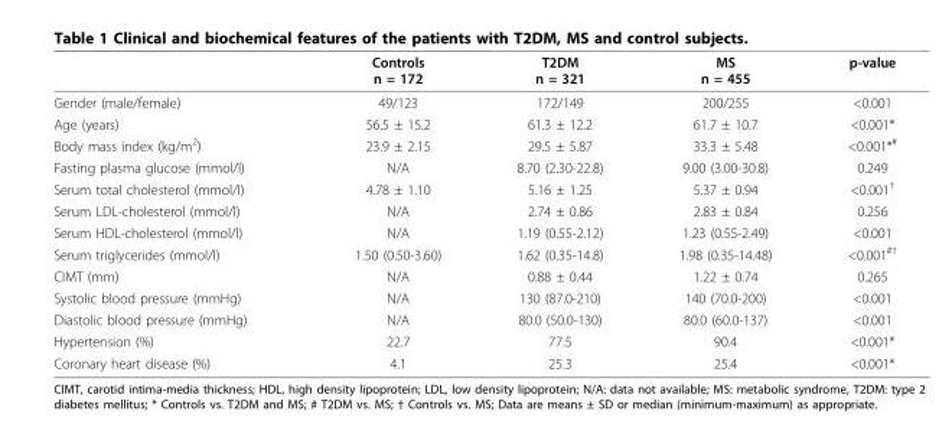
<table><thead><tr><td></td><td>Controls n = 172</td><td>T2DM n = 321</td><td>MS n = 455</td><td>p-value</td></tr></thead><tbody><tr><td>Gender (male/female)</td><td>49/123</td><td>172/149</td><td>200/255</td><td>&lt;0.001</td></tr><tr><td>Age (years)</td><td>56.5 ± 15.2</td><td>61.3 ± 12.2</td><td>61.7 ± 10.7</td><td>&lt;0.001*</td></tr><tr><td>Body mass index (kg/m<sup>2</sup>)</td><td>23.9 ± 2.15</td><td>29.5 ± 5.87</td><td>33.3 ± 5.48</td><td>&lt;0.001*<sup>#</sup></td></tr><tr><td>Fasting plasma glucose (mmol/l)</td><td>N/A</td><td>8.70 (2.30-22.8)</td><td>9.00 (3.00-30.8)</td><td>0.249</td></tr><tr><td>Serum total cholesterol (mmol/l)</td><td>4.78 ± 1.10</td><td>5.16 ± 1.25</td><td>5.37 ± 0.94</td><td>&lt;0.001<sup>†</sup></td></tr><tr><td>Serum LDL-cholesterol (mmol/l)</td><td>N/A</td><td>2.74 ± 0.86</td><td>2.83 ± 0.84</td><td>0.256</td></tr><tr><td>Serum HDL-cholesterol (mmol/l)</td><td>N/A</td><td>1.19 (0.55-2.12)</td><td>1.23 (0.55-2.49)</td><td>&lt;0.001</td></tr><tr><td>Serum triglycerides (mmol/l)</td><td>1.50 (0.50-3.60)</td><td>1.62 (0.35-14.8)</td><td>1.98 (0.35-14.48)</td><td>&lt;0.001<sup>#†</sup></td></tr><tr><td>CIMT (mm)</td><td>N/A</td><td>0.88 ± 0.44</td><td>1.22 ± 0.74</td><td>0.265</td></tr><tr><td>Systolic blood pressure (mmHg)</td><td>N/A</td><td>130 (87.0-210)</td><td>140 (70.0-200)</td><td>&lt;0.001</td></tr><tr><td>Diastolic blood pressure (mmHg)</td><td>N/A</td><td>80.0 (50.0-130)</td><td>80.0 (60.0-137)</td><td>&lt;0.001</td></tr><tr><td>Hypertension (%)</td><td>22.7</td><td>77.5</td><td>90.4</td><td>&lt;0.001*</td></tr><tr><td>Coronary heart disease (%)</td><td>4.1</td><td>25.3</td><td>25.4</td><td>&lt;0.001*</td></tr></tbody></table>